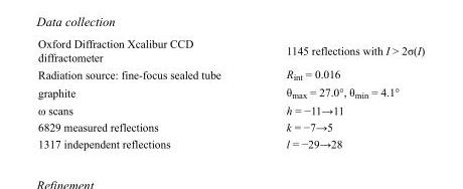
<table><tbody><tr><td>Oxford Diffraction Xcalibur CCD diffractometer</td><td>1145 reflections with I &gt; 2σ(I)</td></tr><tr><td>Radiation source: fine-focus sealed tube</td><td>R<sub>int</sub> = 0.016</td></tr><tr><td>graphite</td><td>θ<sub>max</sub> = 27.0°, θ<sub>min</sub> = 4.1°</td></tr><tr><td>ω scans</td><td>h = −11→11</td></tr><tr><td>6829 measured reflections</td><td>k = −7→5</td></tr><tr><td>1317 independent reflections</td><td>l = −29→28</td></tr></tbody></table>